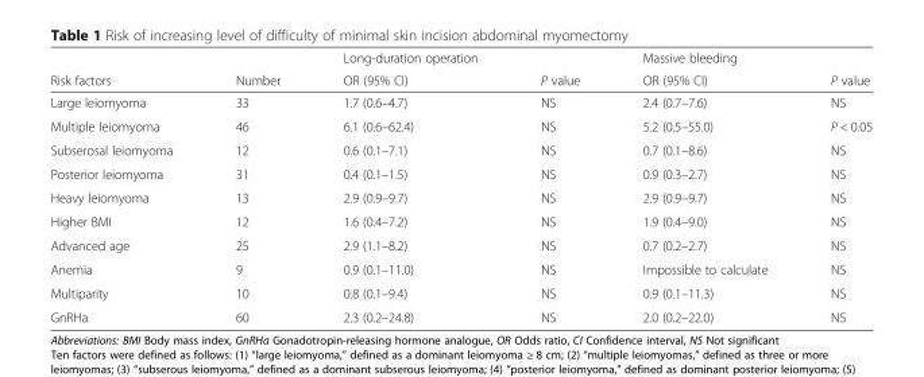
<table><thead><tr><td rowspan="2">Risk factors</td><td rowspan="2">Number</td><td rowspan="2">Long-duration operation OR (95% CI)</td><td rowspan="2">P value</td><td rowspan="2">Massive bleeding OR (95% CI)</td><td rowspan="2">P value</td></tr><tr></tr></thead><tbody><tr><td>Large leiomyoma</td><td>33</td><td>1.7 (0.6–4.7)</td><td>NS</td><td>2.4 (0.7–7.6)</td><td>NS</td></tr><tr><td>Multiple leiomyoma</td><td>46</td><td>6.1 (0.6–62.4)</td><td>NS</td><td>5.2 (0.5–55.0)</td><td>P &lt; 0.05</td></tr><tr><td>Subserosal leiomyoma</td><td>12</td><td>0.6 (0.1–7.1)</td><td>NS</td><td>0.7 (0.1–8.6)</td><td>NS</td></tr><tr><td>Posterior leiomyoma</td><td>31</td><td>0.4 (0.1–1.5)</td><td>NS</td><td>0.9 (0.3–2.7)</td><td>NS</td></tr><tr><td>Heavy leiomyoma</td><td>13</td><td>2.9 (0.9–9.7)</td><td>NS</td><td>2.9 (0.9–9.7)</td><td>NS</td></tr><tr><td>Higher BMI</td><td>12</td><td>1.6 (0.4–7.2)</td><td>NS</td><td>1.9 (0.4–9.0)</td><td>NS</td></tr><tr><td>Advanced age</td><td>25</td><td>2.9 (1.1–8.2)</td><td>NS</td><td>0.7 (0.2–2.7)</td><td>NS</td></tr><tr><td>Anemia</td><td>9</td><td>0.9 (0.1–11.0)</td><td>NS</td><td>Impossible to calculate</td><td>NS</td></tr><tr><td>Multiparity</td><td>10</td><td>0.8 (0.1–9.4)</td><td>NS</td><td>0.9 (0.1–11.3)</td><td>NS</td></tr><tr><td>GnRHa</td><td>60</td><td>2.3 (0.2–24.8)</td><td>NS</td><td>2.0 (0.2–22.0)</td><td>NS</td></tr></tbody></table>